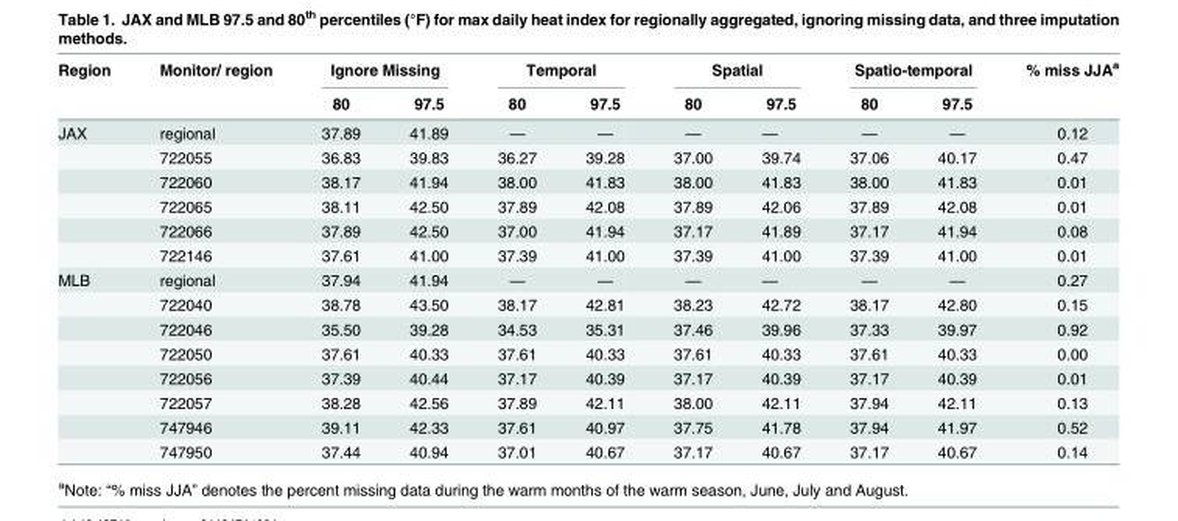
<table><thead><tr><td rowspan="2">Region</td><td rowspan="2">Monitor/ region</td><td colspan="2">Ignore Missing</td><td colspan="2">Temporal</td><td colspan="2">Spatial</td><td colspan="2">Spatio-temporal</td><td rowspan="2">% miss JJA<sup>a</sup></td></tr><tr><td>80</td><td>97.5</td><td>80</td><td>97.5</td><td>80</td><td>97.5</td><td>80</td><td>97.5</td></tr></thead><tbody><tr><td rowspan="6">JAX</td><td>regional</td><td>37.89</td><td>41.89</td><td>—</td><td>—</td><td>—</td><td>—</td><td>—</td><td>—</td><td>0.12</td></tr><tr><td>722055</td><td>36.83</td><td>39.83</td><td>36.27</td><td>39.28</td><td>37.00</td><td>39.74</td><td>37.06</td><td>40.17</td><td>0.47</td></tr><tr><td>722060</td><td>38.17</td><td>41.94</td><td>38.00</td><td>41.83</td><td>38.00</td><td>41.83</td><td>38.00</td><td>41.83</td><td>0.01</td></tr><tr><td>722065</td><td>38.11</td><td>42.50</td><td>37.89</td><td>42.08</td><td>37.89</td><td>42.06</td><td>37.89</td><td>42.08</td><td>0.01</td></tr><tr><td>722066</td><td>37.89</td><td>42.50</td><td>37.00</td><td>41.94</td><td>37.17</td><td>41.89</td><td>37.17</td><td>41.94</td><td>0.08</td></tr><tr><td>722146</td><td>37.61</td><td>41.00</td><td>37.39</td><td>41.00</td><td>37.39</td><td>41.00</td><td>37.39</td><td>41.00</td><td>0.01</td></tr><tr><td rowspan="8">MLB</td><td>regional</td><td>37.94</td><td>41.94</td><td>—</td><td>—</td><td>—</td><td>—</td><td>—</td><td>—</td><td>0.27</td></tr><tr><td>722040</td><td>38.78</td><td>43.50</td><td>38.17</td><td>42.81</td><td>38.23</td><td>42.72</td><td>38.17</td><td>42.80</td><td>0.15</td></tr><tr><td>722046</td><td>35.50</td><td>39.28</td><td>34.53</td><td>35.31</td><td>37.46</td><td>39.96</td><td>37.33</td><td>39.97</td><td>0.92</td></tr><tr><td>722050</td><td>37.61</td><td>40.33</td><td>37.61</td><td>40.33</td><td>37.61</td><td>40.33</td><td>37.61</td><td>40.33</td><td>0.00</td></tr><tr><td>722056</td><td>37.39</td><td>40.44</td><td>37.17</td><td>40.39</td><td>37.17</td><td>40.39</td><td>37.17</td><td>40.39</td><td>0.01</td></tr><tr><td>722057</td><td>38.28</td><td>42.56</td><td>37.89</td><td>42.11</td><td>38.00</td><td>42.11</td><td>37.94</td><td>42.11</td><td>0.13</td></tr><tr><td>747946</td><td>39.11</td><td>42.33</td><td>37.61</td><td>40.97</td><td>37.75</td><td>41.78</td><td>37.94</td><td>41.97</td><td>0.52</td></tr><tr><td>747950</td><td>37.44</td><td>40.94</td><td>37.01</td><td>40.67</td><td>37.17</td><td>40.67</td><td>37.17</td><td>40.67</td><td>0.14</td></tr></tbody></table>